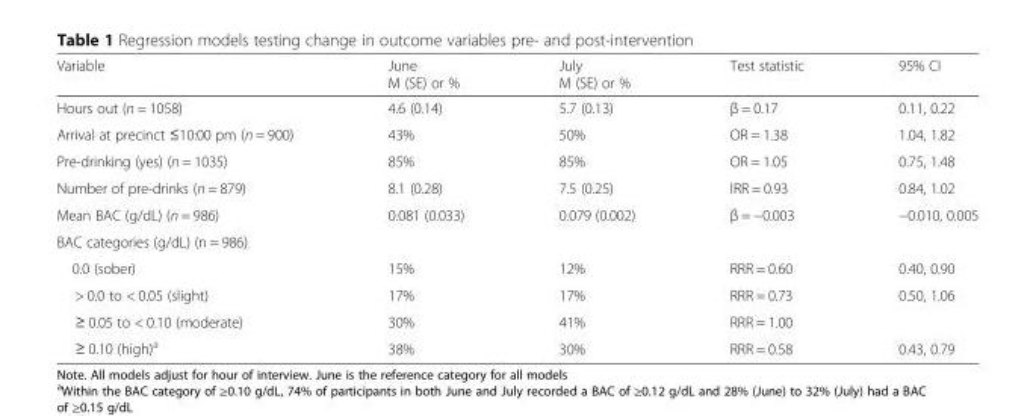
<table><thead><tr><td>Variable</td><td>June M (SE) or %</td><td>July M (SE) or %</td><td>Test statistic</td><td>95% CI</td></tr></thead><tbody><tr><td>Hours out (n = 1058)</td><td>4.6 (0.14)</td><td>5.7 (0.13)</td><td>β = 0.17</td><td>0.11, 0.22</td></tr><tr><td>Arrival at precinct ≤10:00 pm (n = 900)</td><td>43%</td><td>50%</td><td>OR = 1.38</td><td>1.04, 1.82</td></tr><tr><td>Pre-drinking (yes) (n = 1035)</td><td>85%</td><td>85%</td><td>OR = 1.05</td><td>0.75, 1.48</td></tr><tr><td>Number of pre-drinks (n = 879)</td><td>8.1 (0.28)</td><td>7.5 (0.25)</td><td>IRR = 0.93</td><td>0.84, 1.02</td></tr><tr><td>Mean BAC (g/dL) (n = 986)</td><td>0.081 (0.033)</td><td>0.079 (0.002)</td><td>β = −0.003</td><td>−0.010, 0.005</td></tr><tr><td colspan="5">BAC categories (g/dL) (n = 986)</td></tr><tr><td>0.0 (sober)</td><td>15%</td><td>12%</td><td>RRR = 0.60</td><td>0.40, 0.90</td></tr><tr><td>&gt; 0.0 to &lt; 0.05 (slight)</td><td>17%</td><td>17%</td><td>RRR = 0.73</td><td>0.50, 1.06</td></tr><tr><td>≥ 0.05 to &lt; 0.10 (moderate)</td><td>30%</td><td>41%</td><td>RRR = 1.00</td><td></td></tr><tr><td>≥ 0.10 (high)<sup>a</sup></td><td>38%</td><td>30%</td><td>RRR = 0.58</td><td>0.43, 0.79</td></tr></tbody></table>